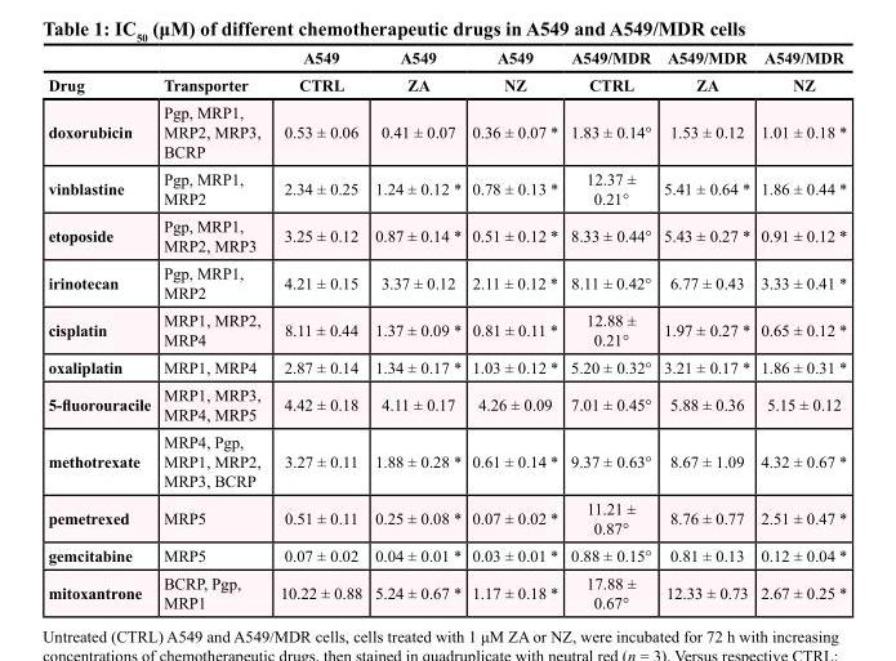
<table><thead><tr><td rowspan="2">Drug</td><td rowspan="2">Transporter</td><td rowspan="2">A549 CTRL</td><td rowspan="2">A549 ZA</td><td rowspan="2">A549 NZ</td><td rowspan="2">A549/MDR CTRL</td><td rowspan="2">A549/MDR ZA</td><td rowspan="2">A549/MDR NZ</td></tr><tr></tr></thead><tbody><tr><td>doxorubicin</td><td>Pgp, MRP1, MRP2, MRP3, BCRP</td><td>0.53 ± 0.06</td><td>0.41 ± 0.07</td><td>0.36 ± 0.07 *</td><td>1.83 ± 0.14°</td><td>1.53 ± 0.12</td><td>1.01 ± 0.18 *</td></tr><tr><td>vinblastine</td><td>Pgp, MRP1, MRP2</td><td>2.34 ± 0.25</td><td>1.24 ± 0.12 *</td><td>0.78 ± 0.13 *</td><td>12.37 ± 0.21°</td><td>5.41 ± 0.64 *</td><td>1.86 ± 0.44 *</td></tr><tr><td>etoposide</td><td>Pgp, MRP1, MRP2, MRP3</td><td>3.25 ± 0.12</td><td>0.87 ± 0.14 *</td><td>0.51 ± 0.12 *</td><td>8.33 ± 0.44°</td><td>5.43 ± 0.27 *</td><td>0.91 ± 0.12 *</td></tr><tr><td>irinotecan</td><td>Pgp, MRP1, MRP2</td><td>4.21 ± 0.15</td><td>3.37 ± 0.12</td><td>2.11 ± 0.12 *</td><td>8.11 ± 0.42°</td><td>6.77 ± 0.43</td><td>3.33 ± 0.41 *</td></tr><tr><td>cisplatin</td><td>MRP1, MRP2, MRP4</td><td>8.11 ± 0.44</td><td>1.37 ± 0.09 *</td><td>0.81 ± 0.11 *</td><td>12.88 ± 0.21°</td><td>1.97 ± 0.27 *</td><td>0.65 ± 0.12 *</td></tr><tr><td>oxaliplatin</td><td>MRP1, MRP4</td><td>2.87 ± 0.14</td><td>1.34 ± 0.17 *</td><td>1.03 ± 0.12 *</td><td>5.20 ± 0.32°</td><td>3.21 ± 0.17 *</td><td>1.86 ± 0.31 *</td></tr><tr><td>5-fluorouracile</td><td>MRP1, MRP3, MRP4, MRP5</td><td>4.42 ± 0.18</td><td>4.11 ± 0.17</td><td>4.26 ± 0.09</td><td>7.01 ± 0.45°</td><td>5.88 ± 0.36</td><td>5.15 ± 0.12</td></tr><tr><td>methotrexate</td><td>MRP4, Pgp, MRP1, MRP2, MRP3, BCRP</td><td>3.27 ± 0.11</td><td>1.88 ± 0.28 *</td><td>0.61 ± 0.14 *</td><td>9.37 ± 0.63°</td><td>8.67 ± 1.09</td><td>4.32 ± 0.67 *</td></tr><tr><td>pemetrexed</td><td>MRP5</td><td>0.51 ± 0.11</td><td>0.25 ± 0.08 *</td><td>0.07 ± 0.02 *</td><td>11.21 ± 0.87°</td><td>8.76 ± 0.77</td><td>2.51 ± 0.47 *</td></tr><tr><td>gemcitabine</td><td>MRP5</td><td>0.07 ± 0.02</td><td>0.04 ± 0.01 *</td><td>0.03 ± 0.01 *</td><td>0.88 ± 0.15°</td><td>0.81 ± 0.13</td><td>0.12 ± 0.04 *</td></tr><tr><td>mitoxantrone</td><td>BCRP, Pgp, MRP1</td><td>10.22 ± 0.88</td><td>5.24 ± 0.67 *</td><td>1.17 ± 0.18 *</td><td>17.88 ± 0.67°</td><td>12.33 ± 0.73</td><td>2.67 ± 0.25 *</td></tr></tbody></table>